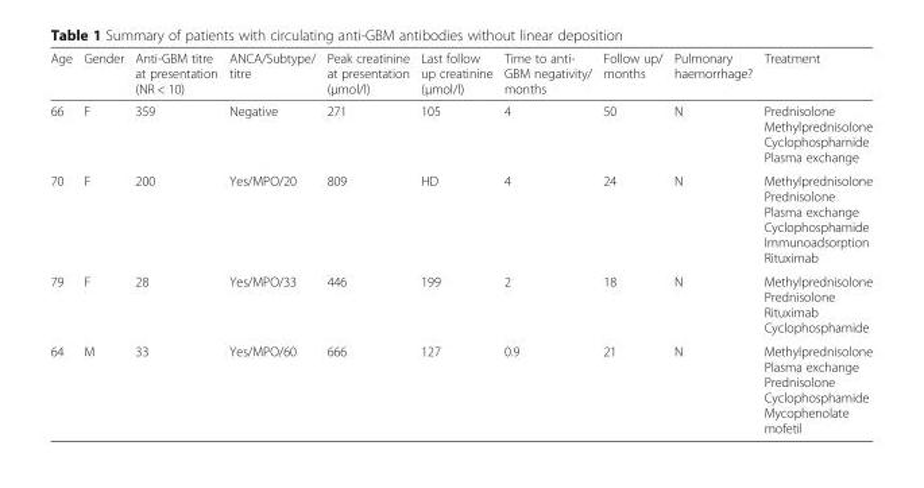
<table><thead><tr><td>Age</td><td>Gender</td><td>Anti-GBM titre at presentation (NR &lt; 10)</td><td>ANCA/Subtype/ titre</td><td>Peak creatinine at presentation (μmol/l)</td><td>Last follow up creatinine (μmol/l)</td><td>Time to anti- GBM negativity/ months</td><td>Follow up/ months</td><td>Pulmonary haemorrhage?</td><td>Treatment</td></tr></thead><tbody><tr><td>66</td><td>F</td><td>359</td><td>Negative</td><td>271</td><td>105</td><td>4</td><td>50</td><td>N</td><td>Prednisolone Methylprednisolone Cyclophosphamide Plasma exchange</td></tr><tr><td>70</td><td>F</td><td>200</td><td>Yes/MPO/20</td><td>809</td><td>HD</td><td>4</td><td>24</td><td>N</td><td>Methylprednisolone Prednisolone Plasma exchange Cyclophosphamide Immunoadsorption Rituximab</td></tr><tr><td>79</td><td>F</td><td>28</td><td>Yes/MPO/33</td><td>446</td><td>199</td><td>2</td><td>18</td><td>N</td><td>Methylprednisolone Prednisolone Rituximab Cyclophosphamide</td></tr><tr><td>64</td><td>M</td><td>33</td><td>Yes/MPO/60</td><td>666</td><td>127</td><td>0.9</td><td>21</td><td>N</td><td>Methylprednisolone Plasma exchange Prednisolone Cyclophosphamide Mycophenolate mofetil</td></tr></tbody></table>